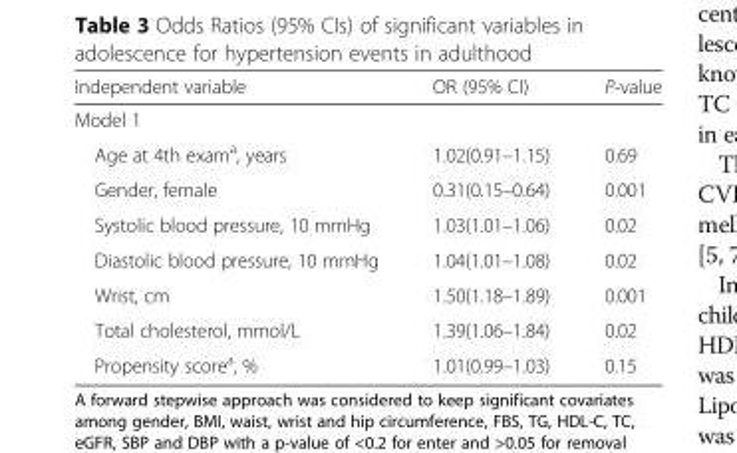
<table><thead><tr><td>Independent variable</td><td>OR (95% CI)</td><td>P-value</td></tr></thead><tbody><tr><td colspan="3">Model 1</td></tr><tr><td>Age at 4th exam<sup>a</sup>, years</td><td>1.02(0.91–1.15)</td><td>0.69</td></tr><tr><td>Gender, female</td><td>0.31(0.15–0.64)</td><td>0.001</td></tr><tr><td>Systolic blood pressure, 10 mmHg</td><td>1.03(1.01–1.06)</td><td>0.02</td></tr><tr><td>Diastolic blood pressure, 10 mmHg</td><td>1.04(1.01–1.08)</td><td>0.02</td></tr><tr><td>Wrist, cm</td><td>1.50(1.18–1.89)</td><td>0.001</td></tr><tr><td>Total cholesterol, mmol/L</td><td>1.39(1.06–1.84)</td><td>0.02</td></tr><tr><td>Propensity score<sup>a</sup>, %</td><td>1.01(0.99–1.03)</td><td>0.15</td></tr></tbody></table>